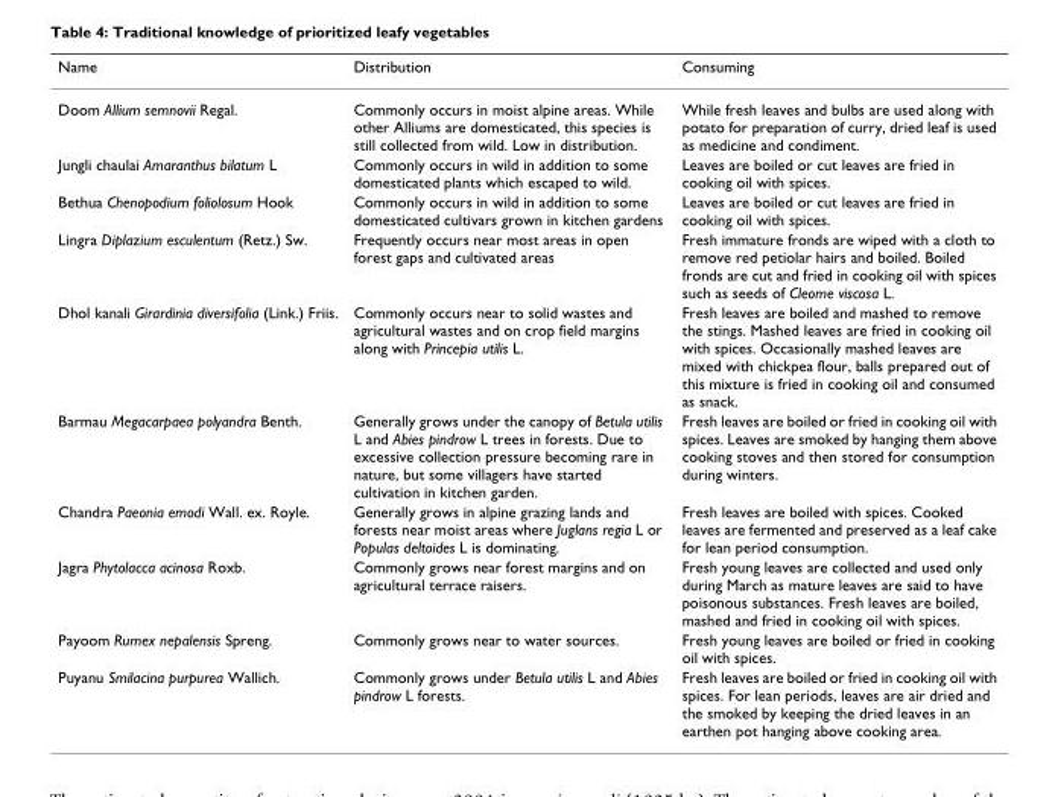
<table><thead><tr><td>Name</td><td>Distribution</td><td>Consuming</td></tr></thead><tbody><tr><td>Doom Allium semnovii Regal.</td><td>Commonly occurs in moist alpine areas. While other Alliums are domesticated, this species is still collected from wild. Low in distribution.</td><td>While fresh leaves and bulbs are used along with potato for preparation of curry, dried leaf is used as medicine and condiment.</td></tr><tr><td>Jungli chaulai Amaranthus bilatum L</td><td>Commonly occurs in wild in addition to some domesticated plants which escaped to wild.</td><td>Leaves are boiled or cut leaves are fried in cooking oil with spices.</td></tr><tr><td>Bethua Chenopodium foliolosum Hook</td><td>Commonly occurs in wild in addition to some domesticated cultivars grown in kitchen gardens</td><td>Leaves are boiled or cut leaves are fried in cooking oil with spices.</td></tr><tr><td>Lingra Diplazium esculentum (Retz.) Sw.</td><td>Frequently occurs near most areas in open forest gaps and cultivated areas</td><td>Fresh immature fronds are wiped with a cloth to remove red petiolar hairs and boiled. Boiled fronds are cut and fried in cooking oil with spices such as seeds of Cleome viscosa L.</td></tr><tr><td>Dhol kanali Girardinia diversifolia (Link.) Friis.</td><td>Commonly occurs near to solid wastes and agricultural wastes and on crop field margins along with Princepia utilis L.</td><td>Fresh leaves are boiled and mashed to remove the stings. Mashed leaves are fried in cooking oil with spices. Occasionally mashed leaves are mixed with chickpea flour, balls prepared out of this mixture is fried in cooking oil and consumed as snack.</td></tr><tr><td>Barmau Megacarpaea polyandra Benth.</td><td>Generally grows under the canopy of Betula utilis L and Abies pindrow L trees in forests. Due to excessive collection pressure becoming rare in nature, but some villagers have started cultivation in kitchen garden.</td><td>Fresh leaves are boiled or fried in cooking oil with spices. Leaves are smoked by hanging them above cooking stoves and then stored for consumption during winters.</td></tr><tr><td>Chandra Paeonia emodi Wall. ex. Royle.</td><td>Generally grows in alpine grazing lands and forests near moist areas where Juglans regia L or Populas deltoides L is dominating.</td><td>Fresh leaves are boiled with spices. Cooked leaves are fermented and preserved as a leaf cake for lean period consumption.</td></tr><tr><td>Jagra Phytolacca acinosa Roxb.</td><td>Commonly grows near forest margins and on agricultural terrace raisers.</td><td>Fresh young leaves are collected and used only during March as mature leaves are said to have poisonous substances. Fresh leaves are boiled, mashed and fried in cooking oil with spices.</td></tr><tr><td>Payoom Rumex nepalensis Spreng.</td><td>Commonly grows near to water sources.</td><td>Fresh young leaves are boiled or fried in cooking oil with spices.</td></tr><tr><td>Puyanu Smilacina purpurea Wallich.</td><td>Commonly grows under Betula utilis L and Abies pindrow L forests.</td><td>Fresh leaves are boiled or fried in cooking oil with spices. For lean periods, leaves are air dried and the smoked by keeping the dried leaves in an earthen pot hanging above cooking area.</td></tr></tbody></table>